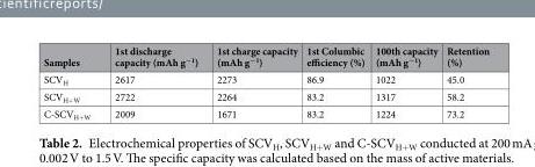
<table><thead><tr><td>Samples</td><td>1st discharge capacity (mAh g<sup>−1</sup>)</td><td>1st charge capacity (mAh g<sup>−1</sup>)</td><td>1st Columbic efficiency (%)</td><td>100th capacity (mAh g<sup>−1</sup>)</td><td>Retention (%)</td></tr></thead><tbody><tr><td>SCV<sub>H</sub></td><td>2617</td><td>2273</td><td>86.9</td><td>1022</td><td>45.0</td></tr><tr><td>SCV<sub>H+W</sub></td><td>2722</td><td>2264</td><td>83.2</td><td>1317</td><td>58.2</td></tr><tr><td>C-SCV<sub>H+W</sub></td><td>2009</td><td>1671</td><td>83.2</td><td>1224</td><td>73.2</td></tr></tbody></table>